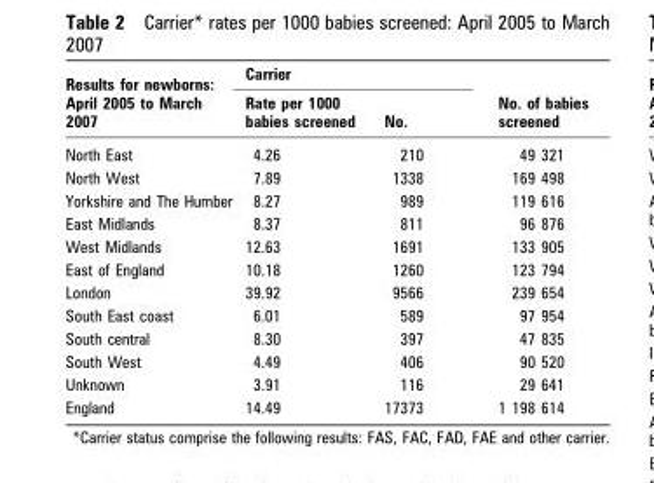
<table><thead><tr><td rowspan="2">Results for newborns: April 2005 to March 2007</td><td colspan="2">Carrier</td><td rowspan="2">No. of babies screened</td></tr><tr><td>Rate per 1000 babies screened</td><td>No.</td></tr></thead><tbody><tr><td>North East</td><td>4.26</td><td>210</td><td>49 321</td></tr><tr><td>North West</td><td>7.89</td><td>1338</td><td>169 498</td></tr><tr><td>Yorkshire and The Humber</td><td>8.27</td><td>989</td><td>119 616</td></tr><tr><td>East Midlands</td><td>8.37</td><td>811</td><td>96 876</td></tr><tr><td>West Midlands</td><td>12.63</td><td>1691</td><td>133 905</td></tr><tr><td>East of England</td><td>10.18</td><td>1260</td><td>123 794</td></tr><tr><td>London</td><td>39.92</td><td>9566</td><td>239 654</td></tr><tr><td>South East coast</td><td>6.01</td><td>589</td><td>97 954</td></tr><tr><td>South central</td><td>8.30</td><td>397</td><td>47 835</td></tr><tr><td>South West</td><td>4.49</td><td>406</td><td>90 520</td></tr><tr><td>Unknown</td><td>3.91</td><td>116</td><td>29 641</td></tr><tr><td>England</td><td>14.49</td><td>17373</td><td>1 198 614</td></tr></tbody></table>